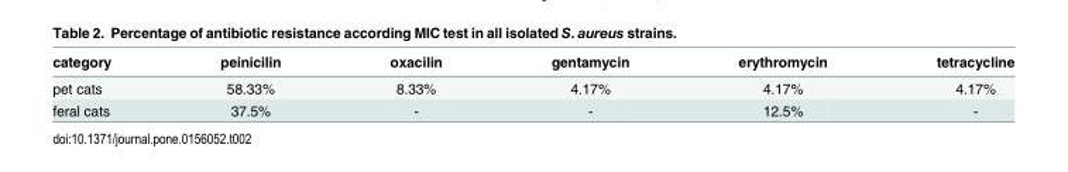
<table><thead><tr><td>category</td><td>peinicilin</td><td>oxacilin</td><td>gentamycin</td><td>erythromycin</td><td>tetracycline</td></tr></thead><tbody><tr><td>pet cats</td><td>58.33%</td><td>8.33%</td><td>4.17%</td><td>4.17%</td><td>4.17%</td></tr><tr><td>feral cats</td><td>37.5%</td><td>-</td><td>-</td><td>12.5%</td><td>-</td></tr></tbody></table>